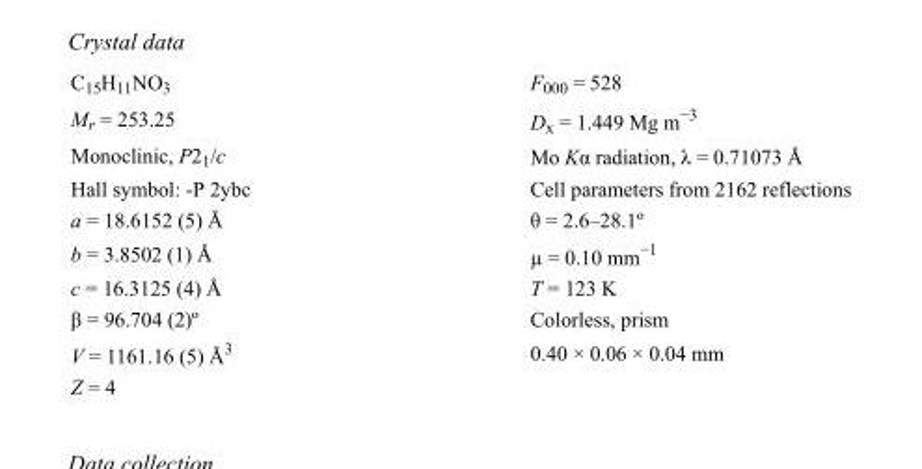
<table><tbody><tr><td>C<sub>15</sub>H<sub>11</sub>NO<sub>3</sub></td><td>F000 = 528</td></tr><tr><td>M<sub>r</sub> = 253.25</td><td>D<sub>x</sub> = 1.449 Mg m<sup>−3</sup></td></tr><tr><td>Monoclinic, P2<sub>1</sub>/c</td><td>Mo Kα radiation, λ = 0.71073 Å</td></tr><tr><td>Hall symbol: -P 2ybc</td><td>Cell parameters from 2162 reflections</td></tr><tr><td>a = 18.6152 (5) Å</td><td>θ = 2.6–28.1º</td></tr><tr><td>b = 3.8502 (1) Å</td><td>µ = 0.10 mm<sup>−1</sup></td></tr><tr><td>c = 16.3125 (4) Å</td><td>T = 123 K</td></tr><tr><td>β = 96.704 (2)º</td><td>Colorless, prism</td></tr><tr><td>V = 1161.16 (5) Å<sup>3</sup></td><td>0.40 × 0.06 × 0.04 mm</td></tr><tr><td>Z = 4</td><td></td></tr></tbody></table>